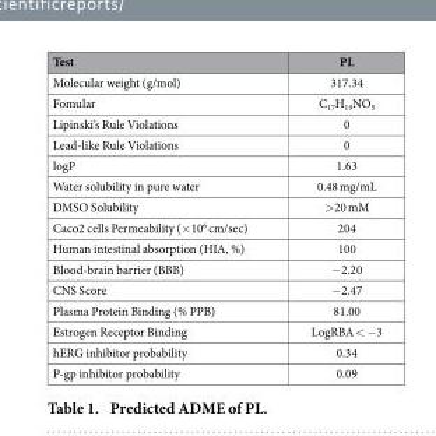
<table><thead><tr><td>Test</td><td>PL</td></tr></thead><tbody><tr><td>Molecular weight (g/mol)</td><td>317.34</td></tr><tr><td>Fomular</td><td>C17H19NO5</td></tr><tr><td>Lipinski’s Rule Violations</td><td>0</td></tr><tr><td>Lead-like Rule Violations</td><td>0</td></tr><tr><td>logP</td><td>1.63</td></tr><tr><td>Water solubility in pure water</td><td>0.48 mg/mL</td></tr><tr><td>DMSO Solubility</td><td>&gt;20 mM</td></tr><tr><td>Caco2 cells Permeability (×106 cm/sec)</td><td>204</td></tr><tr><td>Human intestinal absorption (HIA, %)</td><td>100</td></tr><tr><td>Blood-brain barrier (BBB)</td><td>−2.20</td></tr><tr><td>CNS Score</td><td>−2.47</td></tr><tr><td>Plasma Protein Binding (% PPB)</td><td>81.00</td></tr><tr><td>Estrogen Receptor Binding</td><td>LogRBA &lt; − 3</td></tr><tr><td>hERG inhibitor probability</td><td>0.34</td></tr><tr><td>P-gp inhibitor probability</td><td>0.09</td></tr></tbody></table>